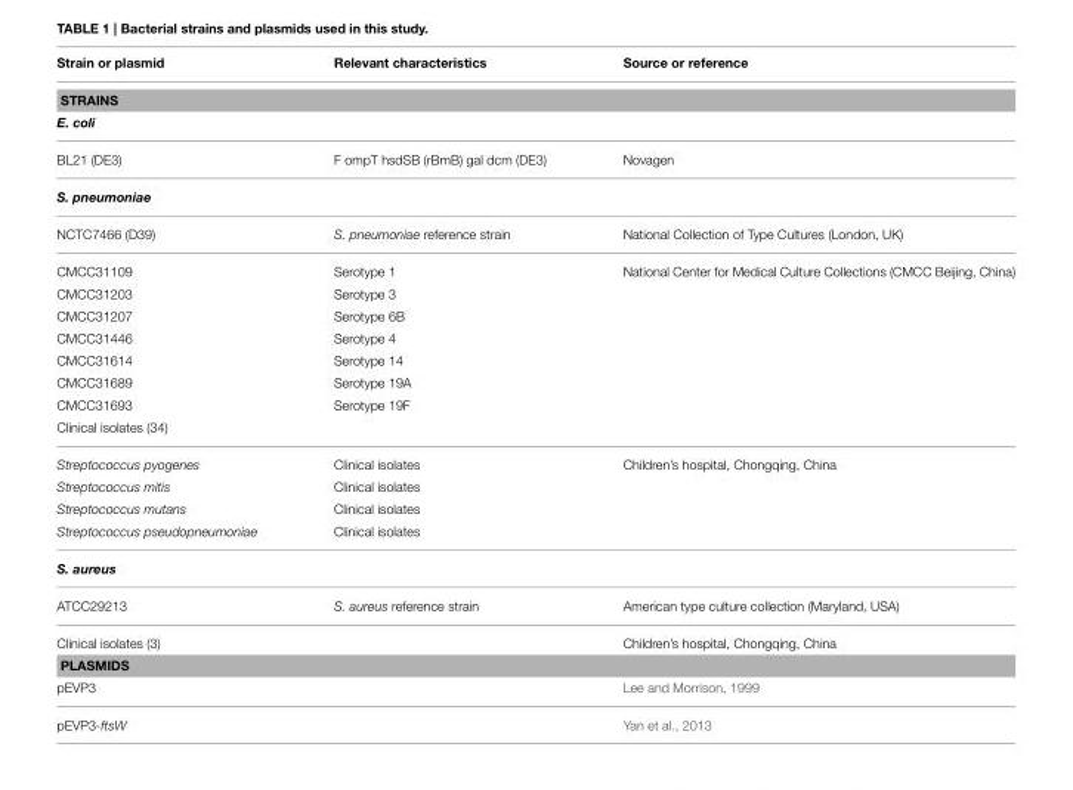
<table><thead><tr><td>Strain or plasmid</td><td>Relevant characteristics</td><td>Source or reference</td></tr></thead><tbody><tr><td colspan="3">STRAINS</td></tr><tr><td colspan="3">E. coli</td></tr><tr><td>BL21 (DE3)</td><td>F ompT hsdSB (rBmB) gal dcm (DE3)</td><td>Novagen</td></tr><tr><td colspan="3">S. pneumoniae</td></tr><tr><td>NCTC7466 (D39)</td><td>S. pneumoniae reference strain</td><td>National Collection of Type Cultures (London, UK)</td></tr><tr><td>CMCC31109</td><td>Serotype 1</td><td>National Center for Medical Culture Collections (CMCC Beijing, China)</td></tr><tr><td>CMCC31203</td><td>Serotype 3</td><td></td></tr><tr><td>CMCC31207</td><td>Serotype 6B</td><td></td></tr><tr><td>CMCC31446</td><td>Serotype 4</td><td></td></tr><tr><td>CMCC31614</td><td>Serotype 14</td><td></td></tr><tr><td>CMCC31689</td><td>Serotype 19A</td><td></td></tr><tr><td>CMCC31693</td><td>Serotype 19F</td><td></td></tr><tr><td colspan="3">Clinical isolates (34)</td></tr><tr><td>Streptococcus pyogenes</td><td>Clinical isolates</td><td>Children’s hospital, Chongqing, China</td></tr><tr><td>Streptococcus mitis</td><td>Clinical isolates</td><td></td></tr><tr><td>Streptococcus mutans</td><td>Clinical isolates</td><td></td></tr><tr><td>Streptococcus pseudopneumoniae</td><td>Clinical isolates</td><td></td></tr><tr><td colspan="3">S. aureus</td></tr><tr><td>ATCC29213</td><td>S. aureus reference strain</td><td>American type culture collection (Maryland, USA)</td></tr><tr><td>Clinical isolates (3)</td><td></td><td>Children’s hospital, Chongqing, China</td></tr><tr><td colspan="3">PLASMIDS</td></tr><tr><td>pEVP3</td><td></td><td>Lee and Morrison, 1999</td></tr><tr><td>pEVP3-ftsW</td><td></td><td>Yan et al., 2013</td></tr></tbody></table>